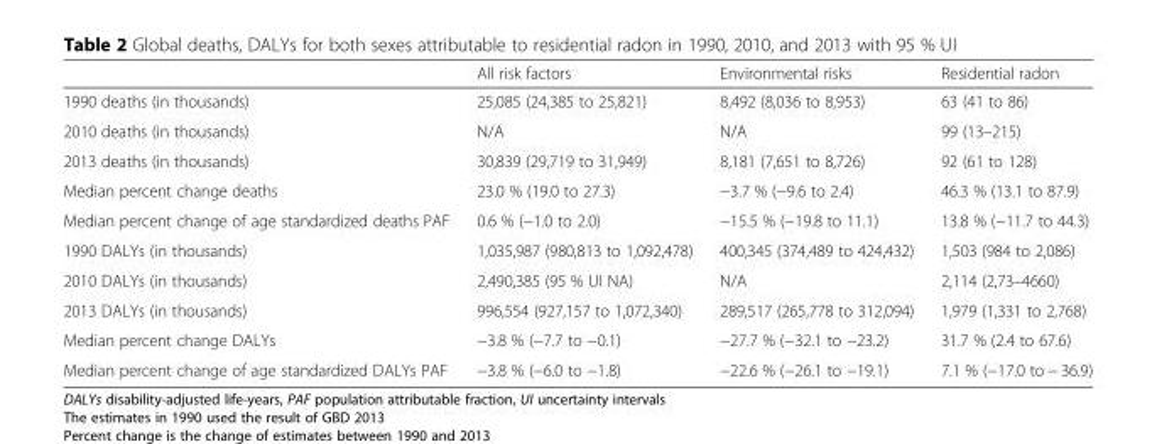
<table><thead><tr><td></td><td>All risk factors</td><td>Environmental risks</td><td>Residential radon</td></tr></thead><tbody><tr><td>1990 deaths (in thousands)</td><td>25,085 (24,385 to 25,821)</td><td>8,492 (8,036 to 8,953)</td><td>63 (41 to 86)</td></tr><tr><td>2010 deaths (in thousands)</td><td>N/A</td><td>N/A</td><td>99 (13–215)</td></tr><tr><td>2013 deaths (in thousands)</td><td>30,839 (29,719 to 31,949)</td><td>8,181 (7,651 to 8,726)</td><td>92 (61 to 128)</td></tr><tr><td>Median percent change deaths</td><td>23.0 % (19.0 to 27.3)</td><td>−3.7 % (−9.6 to 2.4)</td><td>46.3 % (13.1 to 87.9)</td></tr><tr><td>Median percent change of age standardized deaths PAF</td><td>0.6 % (−1.0 to 2.0)</td><td>−15.5 % (−19.8 to 11.1)</td><td>13.8 % (−11.7 to 44.3)</td></tr><tr><td>1990 DALYs (in thousands)</td><td>1,035,987 (980,813 to 1,092,478)</td><td>400,345 (374,489 to 424,432)</td><td>1,503 (984 to 2,086)</td></tr><tr><td>2010 DALYs (in thousands)</td><td>2,490,385 (95 % UI NA)</td><td>N/A</td><td>2,114 (2,73–4660)</td></tr><tr><td>2013 DALYs (in thousands)</td><td>996,554 (927,157 to 1,072,340)</td><td>289,517 (265,778 to 312,094)</td><td>1,979 (1,331 to 2,768)</td></tr><tr><td>Median percent change DALYs</td><td>−3.8 % (−7.7 to −0.1)</td><td>−27.7 % (−32.1 to −23.2)</td><td>31.7 % (2.4 to 67.6)</td></tr><tr><td>Median percent change of age standardized DALYs PAF</td><td>−3.8 % (−6.0 to −1.8)</td><td>−22.6 % (−26.1 to −19.1)</td><td>7.1 % (−17.0 to − 36.9)</td></tr></tbody></table>